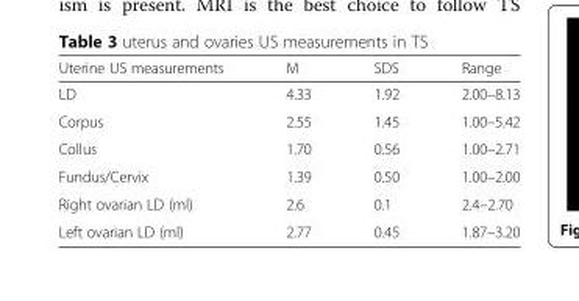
<table><thead><tr><td>Uterine US measurements</td><td>M</td><td>SDS</td><td>Range</td></tr></thead><tbody><tr><td>LD</td><td>4.33</td><td>1.92</td><td>2.00–8.13</td></tr><tr><td>Corpus</td><td>2.55</td><td>1.45</td><td>1.00–5.42</td></tr><tr><td>Collus</td><td>1.70</td><td>0.56</td><td>1.00–2.71</td></tr><tr><td>Fundus/Cervix</td><td>1.39</td><td>0.50</td><td>1.00–2.00</td></tr><tr><td>Right ovarian LD (ml)</td><td>2.6</td><td>0.1</td><td>2.4–2.70</td></tr><tr><td>Left ovarian LD (ml)</td><td>2.77</td><td>0.45</td><td>1.87–3.20</td></tr></tbody></table>